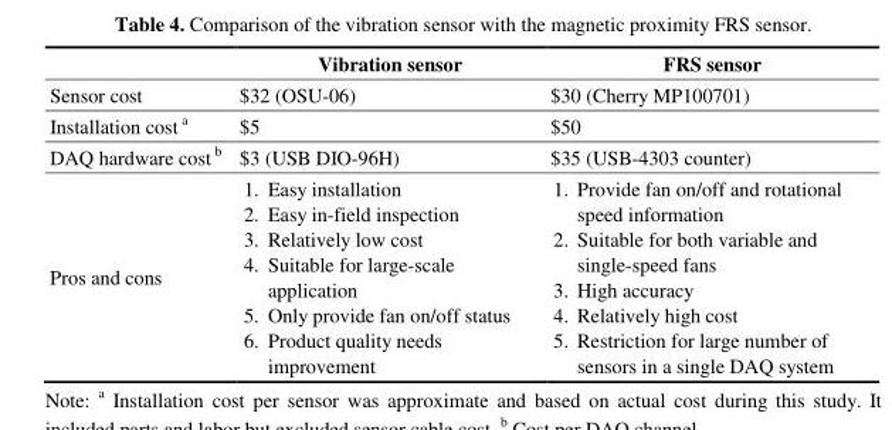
<table><thead><tr><td></td><td>Vibration sensor</td><td>FRS sensor</td></tr></thead><tbody><tr><td>Sensor cost</td><td>$32 (OSU-06)</td><td>$30 (Cherry MP100701)</td></tr><tr><td>Installation cost a</td><td>$5</td><td>$50</td></tr><tr><td>DAQ hardware cost b</td><td>$3 (USB DIO-96H)</td><td>$35 (USB-4303 counter)</td></tr><tr><td>Pros and cons</td><td>1. Easy installation 2. Easy in-field inspection 3. Relatively low cost 4. Suitable for large-scale application 5. Only provide fan on/off status 6. Product quality needs improvement</td><td>1. Provide fan on/off and rotational speed information 2. Suitable for both variable and single-speed fans 3. High accuracy 4. Relatively high cost 5. Restriction for large number of sensors in a single DAQ system</td></tr></tbody></table>